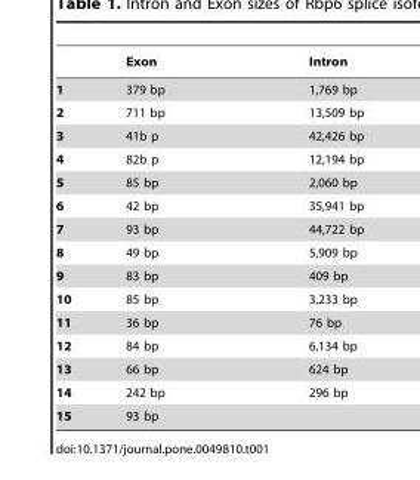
<table><thead><tr><td></td><td>Exon</td><td>Intron</td></tr></thead><tbody><tr><td>1</td><td>379 bp</td><td>1,769 bp</td></tr><tr><td>2</td><td>711 bp</td><td>13,509 bp</td></tr><tr><td>3</td><td>41b p</td><td>42,426 bp</td></tr><tr><td>4</td><td>82b p</td><td>12,194 bp</td></tr><tr><td>5</td><td>85 bp</td><td>2,060 bp</td></tr><tr><td>6</td><td>42 bp</td><td>35,941 bp</td></tr><tr><td>7</td><td>93 bp</td><td>44,722 bp</td></tr><tr><td>8</td><td>49 bp</td><td>5,909 bp</td></tr><tr><td>9</td><td>83 bp</td><td>409 bp</td></tr><tr><td>10</td><td>85 bp</td><td>3,233 bp</td></tr><tr><td>11</td><td>36 bp</td><td>76 bp</td></tr><tr><td>12</td><td>84 bp</td><td>6,134 bp</td></tr><tr><td>13</td><td>66 bp</td><td>624 bp</td></tr><tr><td>14</td><td>242 bp</td><td>296 bp</td></tr><tr><td>15</td><td>93 bp</td><td></td></tr></tbody></table>